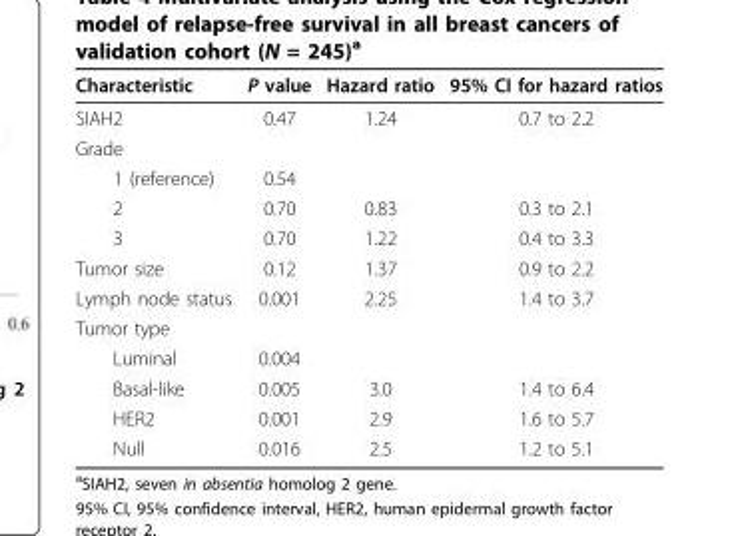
<table><thead><tr><td>Characteristic</td><td>P value</td><td>Hazard ratio</td><td>95% CI for hazard ratios</td></tr></thead><tbody><tr><td>SIAH2</td><td>0.47</td><td>1.24</td><td>0.7 to 2.2</td></tr><tr><td colspan="4">Grade</td></tr><tr><td>1 (reference)</td><td>0.54</td><td></td><td></td></tr><tr><td>2</td><td>0.70</td><td>0.83</td><td>0.3 to 2.1</td></tr><tr><td>3</td><td>0.70</td><td>1.22</td><td>0.4 to 3.3</td></tr><tr><td>Tumor size</td><td>0.12</td><td>1.37</td><td>0.9 to 2.2</td></tr><tr><td>Lymph node status</td><td>0.001</td><td>2.25</td><td>1.4 to 3.7</td></tr><tr><td colspan="4">Tumor type</td></tr><tr><td>Luminal</td><td>0.004</td><td></td><td></td></tr><tr><td>Basal-like</td><td>0.005</td><td>3.0</td><td>1.4 to 6.4</td></tr><tr><td>HER2</td><td>0.001</td><td>2.9</td><td>1.6 to 5.7</td></tr><tr><td>Null</td><td>0.016</td><td>2.5</td><td>1.2 to 5.1</td></tr></tbody></table>